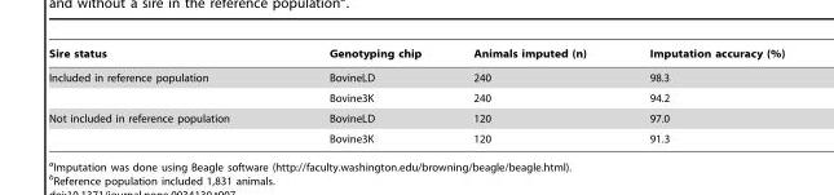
<table><thead><tr><td>Sire status</td><td>Genotyping chip</td><td>Animals imputed (n)</td><td>Imputation accuracy (%)</td></tr></thead><tbody><tr><td rowspan="2">Included in reference population</td><td>BovineLD</td><td>240</td><td>98.3</td></tr><tr><td>Bovine3K</td><td>240</td><td>94.2</td></tr><tr><td rowspan="2">Not included in reference population</td><td>BovineLD</td><td>120</td><td>97.0</td></tr><tr><td>Bovine3K</td><td>120</td><td>91.3</td></tr></tbody></table>